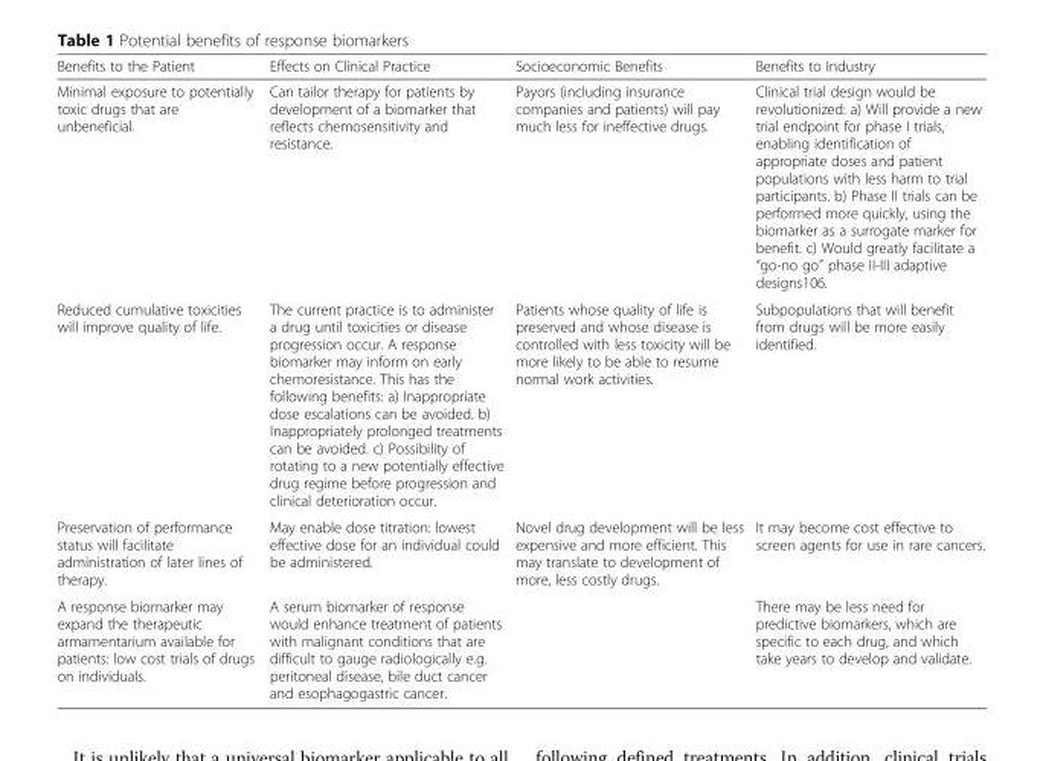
<table><thead><tr><td>Benefits to the Patient</td><td>Effects on Clinical Practice</td><td>Socioeconomic Benefits</td><td>Benefits to Industry</td></tr></thead><tbody><tr><td>Minimal exposure to potentially toxic drugs that are unbeneficial.</td><td>Can tailor therapy for patients by development of a biomarker that reflects chemosensitivity and resistance.</td><td>Payors (including insurance companies and patients) will pay much less for ineffective drugs.</td><td>Clinical trial design would be revolutionized: a) Will provide a new trial endpoint for phase I trials, enabling identification of appropriate doses and patient populations with less harm to trial participants. b) Phase II trials can be performed more quickly, using the biomarker as a surrogate marker for benefit. c) Would greatly facilitate a “go-no go” phase II-III adaptive designs106.</td></tr><tr><td>Reduced cumulative toxicities will improve quality of life.</td><td>The current practice is to administer a drug until toxicities or disease progression occur. A response biomarker may inform on early chemoresistance. This has the following benefits: a) Inappropriate dose escalations can be avoided. b) Inappropriately prolonged treatments can be avoided. c) Possibility of rotating to a new potentially effective drug regime before progression and clinical deterioration occur.</td><td>Patients whose quality of life is preserved and whose disease is controlled with less toxicity will be more likely to be able to resume normal work activities.</td><td>Subpopulations that will benefit from drugs will be more easily identified.</td></tr><tr><td>Preservation of performance status will facilitate administration of later lines of therapy.</td><td>May enable dose titration: lowest effective dose for an individual could be administered.</td><td>Novel drug development will be less expensive and more efficient. This may translate to development of more, less costly drugs.</td><td>It may become cost effective to screen agents for use in rare cancers.</td></tr><tr><td>A response biomarker may expand the therapeutic armamentarium available for patients: low cost trials of drugs on individuals.</td><td>A serum biomarker of response would enhance treatment of patients with malignant conditions that are difficult to gauge radiologically e.g. peritoneal disease, bile duct cancer and esophagogastric cancer.</td><td></td><td>There may be less need for predictive biomarkers, which are specific to each drug, and which take years to develop and validate.</td></tr></tbody></table>